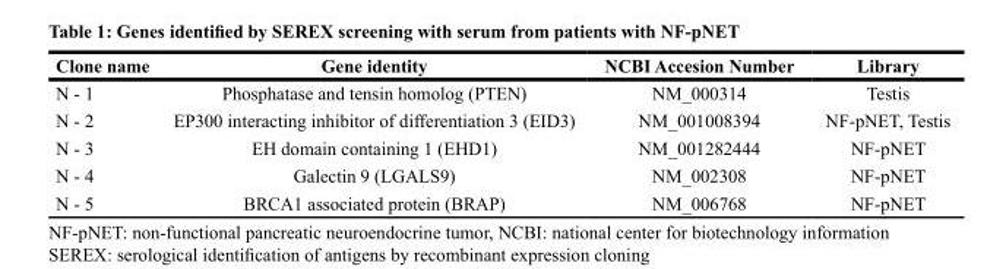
<table><thead><tr><td>Clone name</td><td>Gene identity</td><td>NCBI Accesion Number</td><td>Library</td></tr></thead><tbody><tr><td>N - 1</td><td>Phosphatase and tensin homolog (PTEN)</td><td>NM_000314</td><td>Testis</td></tr><tr><td>N - 2</td><td>EP300 interacting inhibitor of differentiation 3 (EID3)</td><td>NM_001008394</td><td>NF-pNET, Testis</td></tr><tr><td>N - 3</td><td>EH domain containing 1 (EHD1)</td><td>NM_001282444</td><td>NF-pNET</td></tr><tr><td>N - 4</td><td>Galectin 9 (LGALS9)</td><td>NM_002308</td><td>NF-pNET</td></tr><tr><td>N - 5</td><td>BRCA1 associated protein (BRAP)</td><td>NM_006768</td><td>NF-pNET</td></tr></tbody></table>